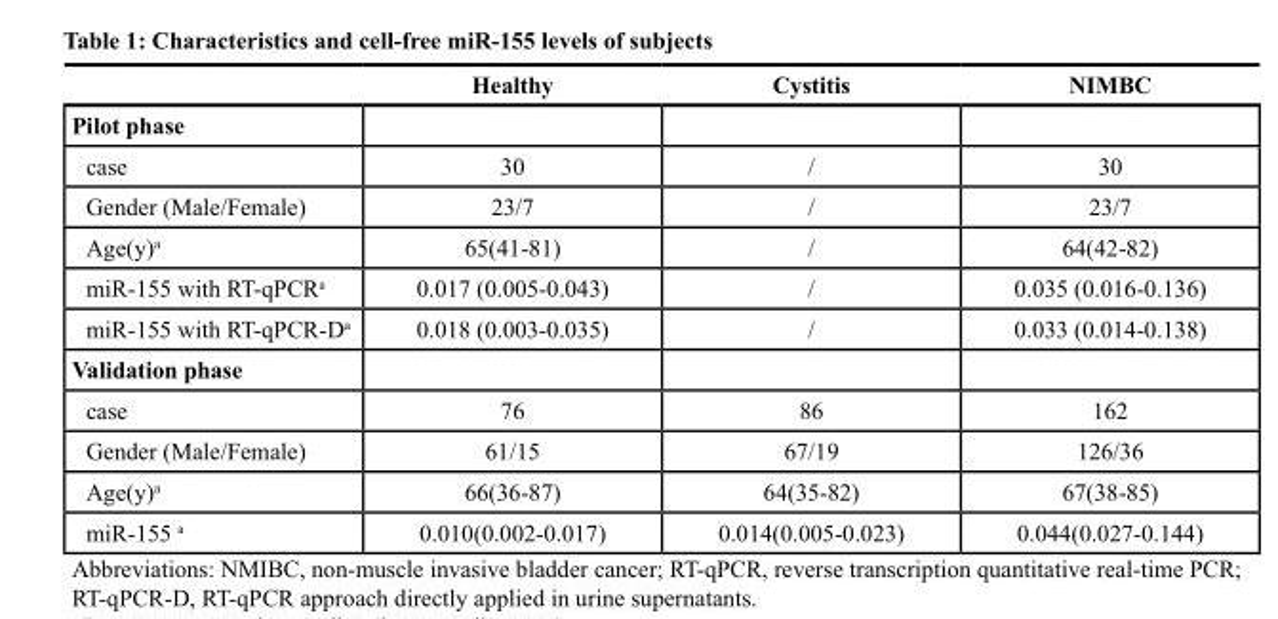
<table><thead><tr><td></td><td>Healthy</td><td>Cystitis</td><td>NIMBC</td></tr></thead><tbody><tr><td colspan="4">Pilot phase</td></tr><tr><td>case</td><td>30</td><td>/</td><td>30</td></tr><tr><td>Gender (Male/Female)</td><td>23/7</td><td>/</td><td>23/7</td></tr><tr><td>Age(y)<sup>a</sup></td><td>65(41-81)</td><td>/</td><td>64(42-82)</td></tr><tr><td>miR-155 with RT-qPCR<sup>a</sup></td><td>0.017 (0.005-0.043)</td><td>/</td><td>0.035 (0.016-0.136)</td></tr><tr><td>miR-155 with RT-qPCR-D<sup>a</sup></td><td>0.018 (0.003-0.035)</td><td>/</td><td>0.033 (0.014-0.138)</td></tr><tr><td colspan="4">Validation phase</td></tr><tr><td>case</td><td>76</td><td>86</td><td>162</td></tr><tr><td>Gender (Male/Female)</td><td>61/15</td><td>67/19</td><td>126/36</td></tr><tr><td>Age(y)<sup>a</sup></td><td>66(36-87)</td><td>64(35-82)</td><td>67(38-85)</td></tr><tr><td>miR-155 <sup>a</sup></td><td>0.010(0.002-0.017)</td><td>0.014(0.005-0.023)</td><td>0.044(0.027-0.144)</td></tr></tbody></table>